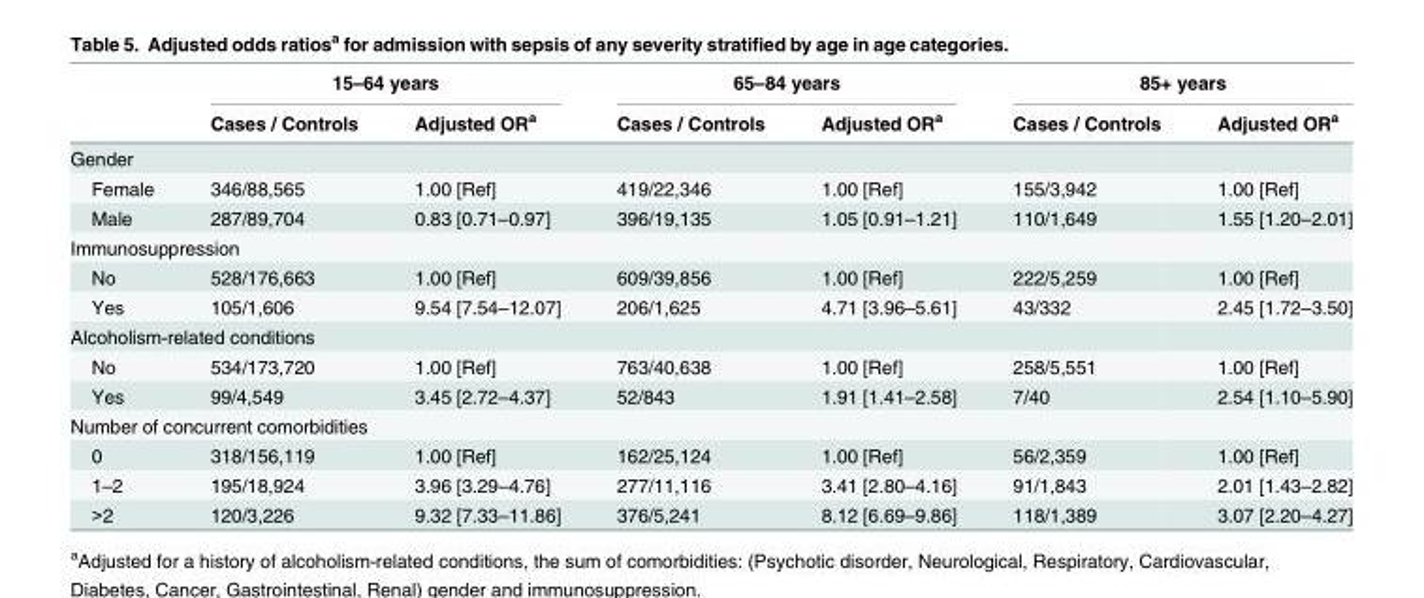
<table><thead><tr><td rowspan="2"></td><td colspan="2">15–64 years</td><td colspan="2">65–84 years</td><td colspan="2">85+ years</td></tr><tr><td>Cases / Controls</td><td>Adjusted OR<sup>a</sup></td><td>Cases / Controls</td><td>Adjusted OR<sup>a</sup></td><td>Cases / Controls</td><td>Adjusted OR<sup>a</sup></td></tr></thead><tbody><tr><td colspan="7">Gender</td></tr><tr><td>Female</td><td>346/88,565</td><td>1.00 [Ref]</td><td>419/22,346</td><td>1.00 [Ref]</td><td>155/3,942</td><td>1.00 [Ref]</td></tr><tr><td>Male</td><td>287/89,704</td><td>0.83 [0.71–0.97]</td><td>396/19,135</td><td>1.05 [0.91–1.21]</td><td>110/1,649</td><td>1.55 [1.20–2.01]</td></tr><tr><td colspan="7">Immunosuppression</td></tr><tr><td>No</td><td>528/176,663</td><td>1.00 [Ref]</td><td>609/39,856</td><td>1.00 [Ref]</td><td>222/5,259</td><td>1.00 [Ref]</td></tr><tr><td>Yes</td><td>105/1,606</td><td>9.54 [7.54–12.07]</td><td>206/1,625</td><td>4.71 [3.96–5.61]</td><td>43/332</td><td>2.45 [1.72–3.50]</td></tr><tr><td colspan="7">Alcoholism-related conditions</td></tr><tr><td>No</td><td>534/173,720</td><td>1.00 [Ref]</td><td>763/40,638</td><td>1.00 [Ref]</td><td>258/5,551</td><td>1.00 [Ref]</td></tr><tr><td>Yes</td><td>99/4,549</td><td>3.45 [2.72–4.37]</td><td>52/843</td><td>1.91 [1.41–2.58]</td><td>7/40</td><td>2.54 [1.10–5.90]</td></tr><tr><td colspan="7">Number of concurrent comorbidities</td></tr><tr><td>0</td><td>318/156,119</td><td>1.00 [Ref]</td><td>162/25,124</td><td>1.00 [Ref]</td><td>56/2,359</td><td>1.00 [Ref]</td></tr><tr><td>1–2</td><td>195/18,924</td><td>3.96 [3.29–4.76]</td><td>277/11,116</td><td>3.41 [2.80–4.16]</td><td>91/1,843</td><td>2.01 [1.43–2.82]</td></tr><tr><td>&gt;2</td><td>120/3,226</td><td>9.32 [7.33–11.86]</td><td>376/5,241</td><td>8.12 [6.69–9.86]</td><td>118/1,389</td><td>3.07 [2.20–4.27]</td></tr></tbody></table>